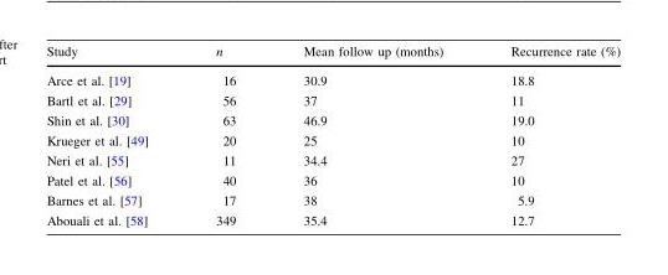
<table><thead><tr><td>Study</td><td>n</td><td>Mean follow up (months)</td><td>Recurrence rate (%)</td></tr></thead><tbody><tr><td>Arce et al. [19]</td><td>16</td><td>30.9</td><td>18.8</td></tr><tr><td>Bartl et al. [29]</td><td>56</td><td>37</td><td>11</td></tr><tr><td>Shin et al. [30]</td><td>63</td><td>46.9</td><td>19.0</td></tr><tr><td>Krueger et al. [49]</td><td>20</td><td>25</td><td>10</td></tr><tr><td>Neri et al. [55]</td><td>11</td><td>34.4</td><td>27</td></tr><tr><td>Patel et al. [56]</td><td>40</td><td>36</td><td>10</td></tr><tr><td>Barnes et al. [57]</td><td>17</td><td>38</td><td>5.9</td></tr><tr><td>Abouali et al. [58]</td><td>349</td><td>35.4</td><td>12.7</td></tr></tbody></table>